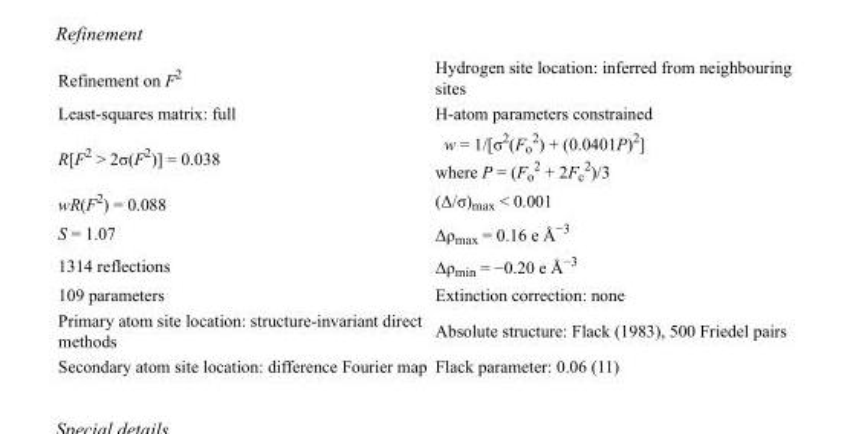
<table><tbody><tr><td>Refinement on F<sup>2</sup></td><td>Hydrogen site location: inferred from neighbouring sites</td></tr><tr><td>Least-squares matrix: full</td><td>H-atom parameters constrained</td></tr><tr><td>R[F<sup>2</sup> &gt; 2σ(F<sup>2</sup>)] = 0.038</td><td>w = 1/[σ<sup>2</sup>(F<sub>o</sub> <sup>2</sup>) + (0.0401P)<sup>2</sup>] where P = (F<sub>o</sub> <sup>2</sup> + 2F<sub>c</sub> <sup>2</sup>)/3</td></tr><tr><td>wR(F<sup>2</sup>) = 0.088</td><td>(Δ/σ)<sub>max</sub> &lt; 0.001</td></tr><tr><td>S = 1.07</td><td>Δρ<sub>max</sub> = 0.16 e Å<sup>−3</sup></td></tr><tr><td>1314 reflections</td><td>Δρ<sub>min</sub> = −0.20 e Å<sup>−3</sup></td></tr><tr><td>109 parameters</td><td>Extinction correction: none</td></tr><tr><td>Primary atom site location: structure-invariant direct methods</td><td>Absolute structure: Flack (1983), 500 Friedel pairs</td></tr><tr><td>Secondary atom site location: difference Fourier map</td><td>Flack parameter: 0.06 (11)</td></tr></tbody></table>